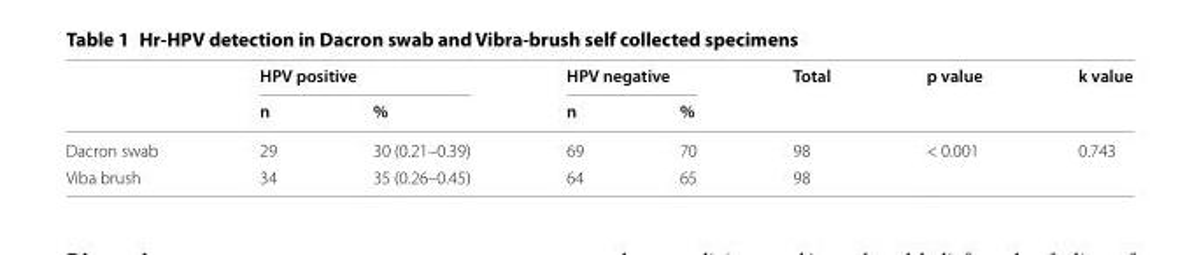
<table><thead><tr><td rowspan="2"></td><td colspan="2">HPV positive</td><td colspan="2">HPV negative</td><td rowspan="2">Total</td><td rowspan="2">p value</td><td rowspan="2">k value</td></tr><tr><td>n</td><td>%</td><td>n</td><td>%</td></tr></thead><tbody><tr><td>Dacron swab</td><td>29</td><td>30 (0.21–0.39)</td><td>69</td><td>70</td><td>98</td><td rowspan="2">&lt; 0.001</td><td rowspan="2">0.743</td></tr><tr><td>Viba brush</td><td>34</td><td>35 (0.26–0.45)</td><td>64</td><td>65</td><td>98</td></tr></tbody></table>